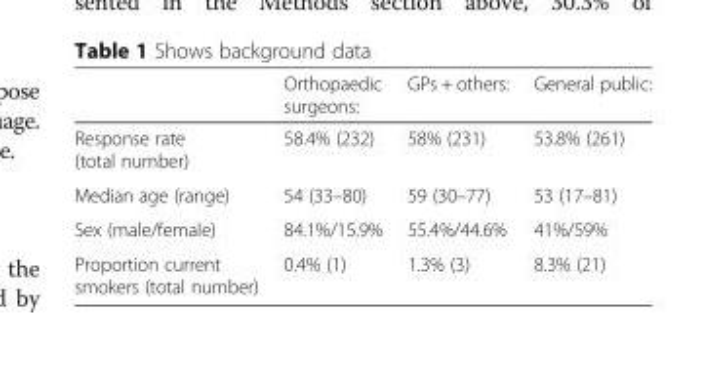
<table><thead><tr><td></td><td>Orthopaedic surgeons:</td><td>GPs + others:</td><td>General public:</td></tr></thead><tbody><tr><td>Response rate (total number)</td><td>58.4% (232)</td><td>58% (231)</td><td>53.8% (261)</td></tr><tr><td>Median age (range)</td><td>54 (33–80)</td><td>59 (30–77)</td><td>53 (17–81)</td></tr><tr><td>Sex (male/female)</td><td>84.1%/15.9%</td><td>55.4%/44.6%</td><td>41%/59%</td></tr><tr><td>Proportion current smokers (total number)</td><td>0.4% (1)</td><td>1.3% (3)</td><td>8.3% (21)</td></tr></tbody></table>